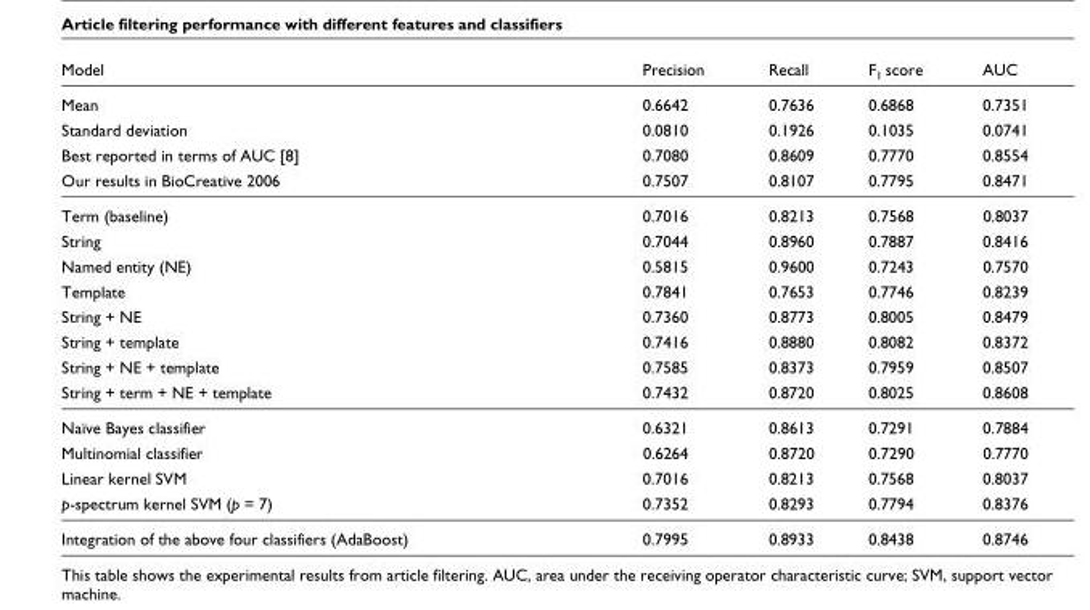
<table><thead><tr><td>Model</td><td>Precision</td><td>Recall</td><td>F<sub>1</sub> score</td><td>AUC</td></tr></thead><tbody><tr><td>Mean</td><td>0.6642</td><td>0.7636</td><td>0.6868</td><td>0.7351</td></tr><tr><td>Standard deviation</td><td>0.0810</td><td>0.1926</td><td>0.1035</td><td>0.0741</td></tr><tr><td>Best reported in terms of AUC [8]</td><td>0.7080</td><td>0.8609</td><td>0.7770</td><td>0.8554</td></tr><tr><td>Our results in BioCreative 2006</td><td>0.7507</td><td>0.8107</td><td>0.7795</td><td>0.8471</td></tr><tr><td>Term (baseline)</td><td>0.7016</td><td>0.8213</td><td>0.7568</td><td>0.8037</td></tr><tr><td>String</td><td>0.7044</td><td>0.8960</td><td>0.7887</td><td>0.8416</td></tr><tr><td>Named entity (NE)</td><td>0.5815</td><td>0.9600</td><td>0.7243</td><td>0.7570</td></tr><tr><td>Template</td><td>0.7841</td><td>0.7653</td><td>0.7746</td><td>0.8239</td></tr><tr><td>String + NE</td><td>0.7360</td><td>0.8773</td><td>0.8005</td><td>0.8479</td></tr><tr><td>String + template</td><td>0.7416</td><td>0.8880</td><td>0.8082</td><td>0.8372</td></tr><tr><td>String + NE + template</td><td>0.7585</td><td>0.8373</td><td>0.7959</td><td>0.8507</td></tr><tr><td>String + term + NE + template</td><td>0.7432</td><td>0.8720</td><td>0.8025</td><td>0.8608</td></tr><tr><td>Naïve Bayes classifier</td><td>0.6321</td><td>0.8613</td><td>0.7291</td><td>0.7884</td></tr><tr><td>Multinomial classifier</td><td>0.6264</td><td>0.8720</td><td>0.7290</td><td>0.7770</td></tr><tr><td>Linear kernel SVM</td><td>0.7016</td><td>0.8213</td><td>0.7568</td><td>0.8037</td></tr><tr><td>p-spectrum kernel SVM (p = 7)</td><td>0.7352</td><td>0.8293</td><td>0.7794</td><td>0.8376</td></tr><tr><td>Integration of the above four classifiers (AdaBoost)</td><td>0.7995</td><td>0.8933</td><td>0.8438</td><td>0.8746</td></tr></tbody></table>